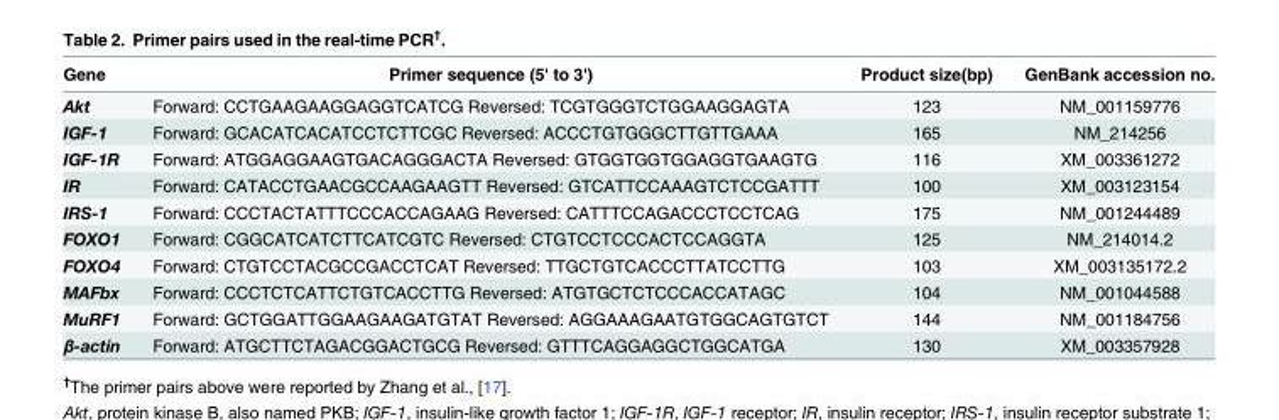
<table><thead><tr><td>Gene</td><td>Primer sequence (5&#x27; to 3&#x27;)</td><td>Product size(bp)</td><td>GenBank accession no.</td></tr></thead><tbody><tr><td>Akt</td><td>Forward: CCTGAAGAAGGAGGTCATCG Reversed: TCGTGGGTCTGGAAGGAGTA</td><td>123</td><td>NM_001159776</td></tr><tr><td>IGF-1</td><td>Forward: GCACATCACATCCTCTTCGC Reversed: ACCCTGTGGGCTTGTTGAAA</td><td>165</td><td>NM_214256</td></tr><tr><td>IGF-1R</td><td>Forward: ATGGAGGAAGTGACAGGGACTA Reversed: GTGGTGGTGGAGGTGAAGTG</td><td>116</td><td>XM_003361272</td></tr><tr><td>IR</td><td>Forward: CATACCTGAACGCCAAGAAGTT Reversed: GTCATTCCAAAGTCTCCGATTT</td><td>100</td><td>XM_003123154</td></tr><tr><td>IRS-1</td><td>Forward: CCCTACTATTTCCCACCAGAAG Reversed: CATTTCCAGACCCTCCTCAG</td><td>175</td><td>NM_001244489</td></tr><tr><td>FOXO1</td><td>Forward: CGGCATCATCTTCATCGTC Reversed: CTGTCCTCCCACTCCAGGTA</td><td>125</td><td>NM_214014.2</td></tr><tr><td>FOXO4</td><td>Forward: CTGTCCTACGCCGACCTCAT Reversed: TTGCTGTCACCCTTATCCTTG</td><td>103</td><td>XM_003135172.2</td></tr><tr><td>MAFbx</td><td>Forward: CCCTCTCATTCTGTCACCTTG Reversed: ATGTGCTCTCCCACCATAGC</td><td>104</td><td>NM_001044588</td></tr><tr><td>MuRF1</td><td>Forward: GCTGGATTGGAAGAAGATGTAT Reversed: AGGAAAGAATGTGGCAGTGTCT</td><td>144</td><td>NM_001184756</td></tr><tr><td>β-actin</td><td>Forward: ATGCTTCTAGACGGACTGCG Reversed: GTTTCAGGAGGCTGGCATGA</td><td>130</td><td>XM_003357928</td></tr></tbody></table>